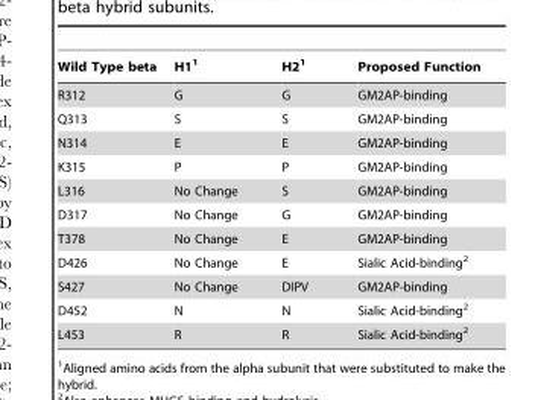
<table><thead><tr><td>Wild Type beta</td><td>H1<sup>1</sup></td><td>H2<sup>1</sup></td><td>Proposed Function</td></tr></thead><tbody><tr><td>R312</td><td>G</td><td>G</td><td>GM2AP-binding</td></tr><tr><td>Q313</td><td>S</td><td>S</td><td>GM2AP-binding</td></tr><tr><td>N314</td><td>E</td><td>E</td><td>GM2AP-binding</td></tr><tr><td>K315</td><td>P</td><td>P</td><td>GM2AP-binding</td></tr><tr><td>L316</td><td>No Change</td><td>S</td><td>GM2AP-binding</td></tr><tr><td>D317</td><td>No Change</td><td>G</td><td>GM2AP-binding</td></tr><tr><td>T378</td><td>No Change</td><td>E</td><td>GM2AP-binding</td></tr><tr><td>D426</td><td>No Change</td><td>E</td><td>Sialic Acid-binding<sup>2</sup></td></tr><tr><td>S427</td><td>No Change</td><td>DIPV</td><td>GM2AP-binding</td></tr><tr><td>D452</td><td>N</td><td>N</td><td>Sialic Acid-binding<sup>2</sup></td></tr><tr><td>L453</td><td>R</td><td>R</td><td>Sialic Acid-binding<sup>2</sup></td></tr></tbody></table>